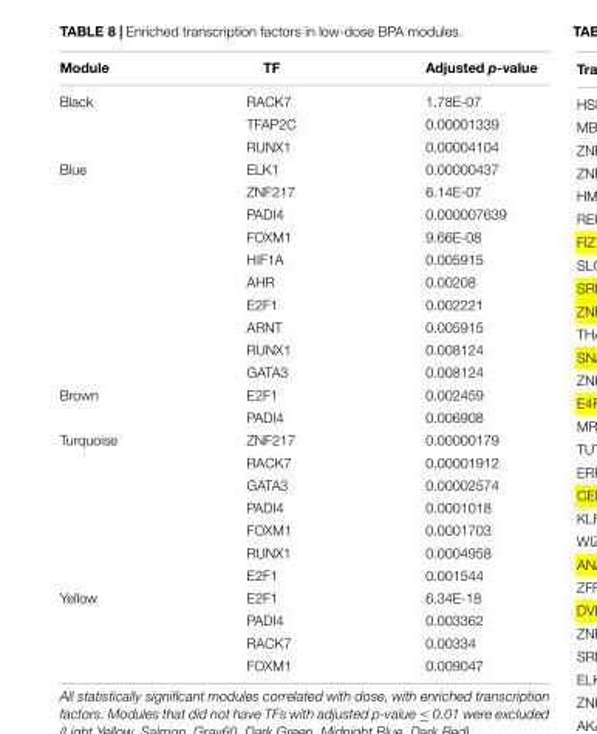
<table><thead><tr><td>Module</td><td>TF</td><td>Adjusted p-value</td></tr></thead><tbody><tr><td rowspan="3">Black</td><td>RACK7</td><td>1.78E-07</td></tr><tr><td>TFAP2C</td><td>0.00001339</td></tr><tr><td>RUNX1</td><td>0.00004104</td></tr><tr><td rowspan="10">Blue</td><td>ELK1</td><td>0.00000437</td></tr><tr><td>ZNF217</td><td>6.14E-07</td></tr><tr><td>PADI4</td><td>0.000007639</td></tr><tr><td>FOXM1</td><td>9.66E-08</td></tr><tr><td>HIF1A</td><td>0.005915</td></tr><tr><td>AHR</td><td>0.00208</td></tr><tr><td>E2F1</td><td>0.002221</td></tr><tr><td>ARNT</td><td>0.005915</td></tr><tr><td>RUNX1</td><td>0.008124</td></tr><tr><td>GATA3</td><td>0.008124</td></tr><tr><td rowspan="2">Brown</td><td>E2F1</td><td>0.002459</td></tr><tr><td>PADI4</td><td>0.006908</td></tr><tr><td rowspan="7">Turquoise</td><td>ZNF217</td><td>0.00000179</td></tr><tr><td>RACK7</td><td>0.00001912</td></tr><tr><td>GATA3</td><td>0.00002574</td></tr><tr><td>PADI4</td><td>0.0001018</td></tr><tr><td>FOXM1</td><td>0.0001703</td></tr><tr><td>RUNX1</td><td>0.0004958</td></tr><tr><td>E2F1</td><td>0.001544</td></tr><tr><td rowspan="4">Yellow</td><td>E2F1</td><td>6.34E-18</td></tr><tr><td>PADI4</td><td>0.003362</td></tr><tr><td>RACK7</td><td>0.00334</td></tr><tr><td>FOXM1</td><td>0.009047</td></tr></tbody></table>